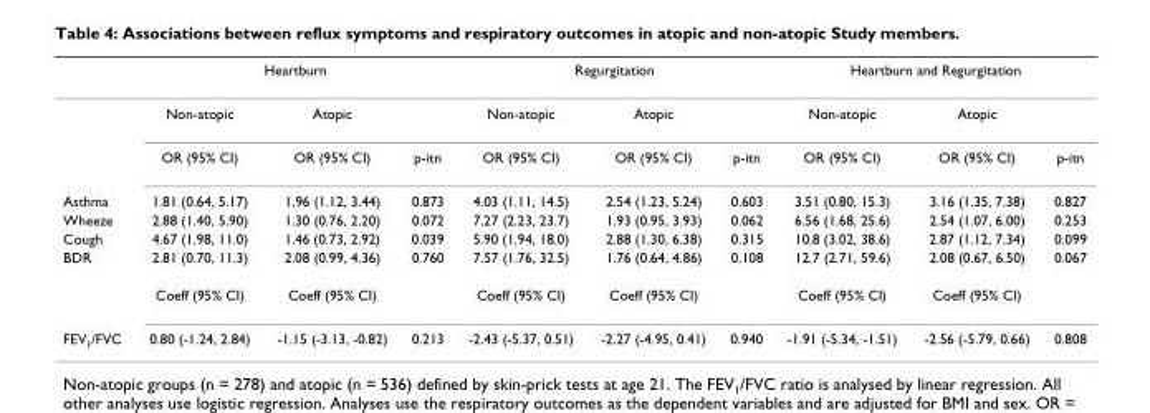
<table><thead><tr><td rowspan="2"></td><td colspan="3">Heartburn</td><td colspan="3">Regurgitation</td><td colspan="3">Heartburn and Regurgitation</td></tr><tr><td>Non-atopic</td><td>Atopic</td><td></td><td>Non-atopic</td><td>Atopic</td><td></td><td>Non-atopic</td><td>Atopic</td><td></td></tr></thead><tbody><tr><td></td><td>OR (95% CI)</td><td>OR (95% CI)</td><td>p-itn</td><td>OR (95% CI)</td><td>OR (95% CI)</td><td>p-itn</td><td>OR (95% CI)</td><td>OR (95% CI)</td><td>p-itn</td></tr><tr><td>Asthma</td><td>1.81 (0.64, 5.17)</td><td>1.96 (1.12, 3.44)</td><td>0.873</td><td>4.03 (1.11, 14.5)</td><td>2.54 (1.23, 5.24)</td><td>0.603</td><td>3.51 (0.80, 15.3)</td><td>3.16 (1.35, 7.38)</td><td>0.827</td></tr><tr><td>Wheeze</td><td>2.88 (1.40, 5.90)</td><td>1.30 (0.76, 2.20)</td><td>0.072</td><td>7.27 (2.23, 23.7)</td><td>1.93 (0.95, 3.93)</td><td>0.062</td><td>6.56 (1.68, 25.6)</td><td>2.54 (1.07, 6.00)</td><td>0.253</td></tr><tr><td>Cough</td><td>4.67 (1.98, 11.0)</td><td>1.46 (0.73, 2.92)</td><td>0.039</td><td>5.90 (1.94, 18.0)</td><td>2.88 (1.30, 6.38)</td><td>0.315</td><td>10.8 (3.02, 38.6)</td><td>2.87 (1.12, 7.34)</td><td>0.099</td></tr><tr><td rowspan="2">BDR</td><td>2.81 (0.70, 11.3)</td><td>2.08 (0.99, 4.36)</td><td>0.760</td><td>7.57 (1.76, 32.5)</td><td>1.76 (0.64, 4.86)</td><td>0.108</td><td>12.7 (2.71, 59.6)</td><td>2.08 (0.67, 6.50)</td><td>0.067</td></tr><tr><td>Coeff (95% CI)</td><td>Coeff (95% CI)</td><td></td><td>Coeff (95% CI)</td><td>Coeff (95% CI)</td><td></td><td>Coeff (95% CI)</td><td>Coeff (95% CI)</td><td></td></tr><tr><td>FEV<sub>1</sub>/FVC</td><td>0.80 (-1.24, 2.84)</td><td>-1.15 (-3.13, -0.82)</td><td>0.213</td><td>-2.43 (-5.37, 0.51)</td><td>-2.27 (-4.95, 0.41)</td><td>0.940</td><td>-1.91 (-5.34, -1.51)</td><td>-2.56 (-5.79, 0.66)</td><td>0.808</td></tr></tbody></table>